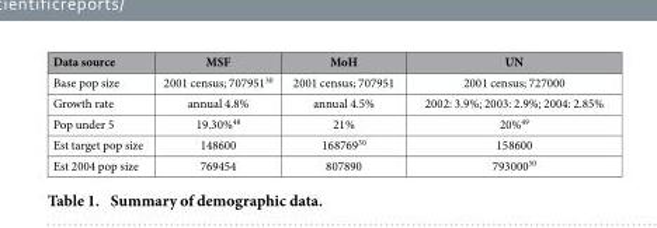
<table><thead><tr><td>Data source</td><td>MSF</td><td>MoH</td><td>UN</td></tr></thead><tbody><tr><td>Base pop size</td><td>2001 census; 707951<sup>30</sup></td><td>2001 census; 707951</td><td>2001 census; 727000</td></tr><tr><td>Growth rate</td><td>annual 4.8%</td><td>annual 4.5%</td><td>2002: 3.9%; 2003: 2.9%; 2004: 2.85%</td></tr><tr><td>Pop under 5</td><td>19.30%<sup>48</sup></td><td>21%</td><td>20%<sup>49</sup></td></tr><tr><td>Est target pop size</td><td>148600</td><td>168769<sup>30</sup></td><td>158600</td></tr><tr><td>Est 2004 pop size</td><td>769454</td><td>807890</td><td>793000<sup>50</sup></td></tr></tbody></table>